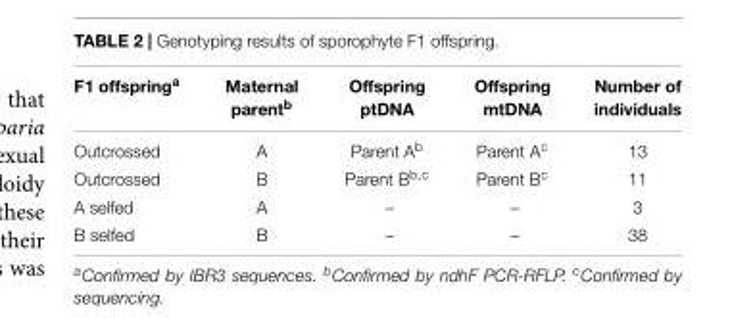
<table><thead><tr><td>F1 offspring<sup>a</sup></td><td>Maternal parent<sup>b</sup></td><td>Offspring ptDNA</td><td>Offspring mtDNA</td><td>Number of individuals</td></tr></thead><tbody><tr><td>Outcrossed</td><td>A</td><td>Parent A<sup>b</sup></td><td>Parent A<sup>c</sup></td><td>13</td></tr><tr><td>Outcrossed</td><td>B</td><td>Parent B<sup>b,c</sup></td><td>Parent B<sup>c</sup></td><td>11</td></tr><tr><td>A selfed</td><td>A</td><td>–</td><td>–</td><td>3</td></tr><tr><td>B selfed</td><td>B</td><td>–</td><td>–</td><td>38</td></tr></tbody></table>